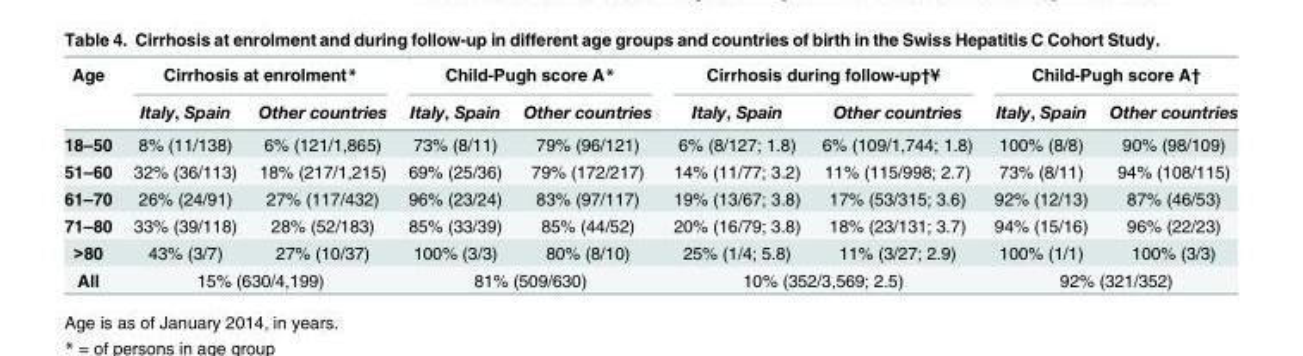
<table><thead><tr><td rowspan="2">Age</td><td colspan="2">Cirrhosis at enrolment*</td><td colspan="2">Child-Pugh score A*</td><td colspan="2">Cirrhosis during follow-up†¥</td><td colspan="2">Child-Pugh score A†</td></tr><tr><td>Italy, Spain</td><td>Other countries</td><td>Italy, Spain</td><td>Other countries</td><td>Italy, Spain</td><td>Other countries</td><td>Italy, Spain</td><td>Other countries</td></tr></thead><tbody><tr><td>18–50</td><td>8% (11/138)</td><td>6% (121/1,865)</td><td>73% (8/11)</td><td>79% (96/121)</td><td>6% (8/127; 1.8)</td><td>6% (109/1,744; 1.8)</td><td>100% (8/8)</td><td>90% (98/109)</td></tr><tr><td>51–60</td><td>32% (36/113)</td><td>18% (217/1,215)</td><td>69% (25/36)</td><td>79% (172/217)</td><td>14% (11/77; 3.2)</td><td>11% (115/998; 2.7)</td><td>73% (8/11)</td><td>94% (108/115)</td></tr><tr><td>61–70</td><td>26% (24/91)</td><td>27% (117/432)</td><td>96% (23/24)</td><td>83% (97/117)</td><td>19% (13/67; 3.8)</td><td>17% (53/315; 3.6)</td><td>92% (12/13)</td><td>87% (46/53)</td></tr><tr><td>71–80</td><td>33% (39/118)</td><td>28% (52/183)</td><td>85% (33/39)</td><td>85% (44/52)</td><td>20% (16/79; 3.8)</td><td>18% (23/131; 3.7)</td><td>94% (15/16)</td><td>96% (22/23)</td></tr><tr><td>&gt;80</td><td>43% (3/7)</td><td>27% (10/37)</td><td>100% (3/3)</td><td>80% (8/10)</td><td>25% (1/4; 5.8)</td><td>11% (3/27; 2.9)</td><td>100% (1/1)</td><td>100% (3/3)</td></tr><tr><td>All</td><td colspan="2">15% (630/4,199)</td><td colspan="2">81% (509/630)</td><td colspan="2">10% (352/3,569; 2.5)</td><td colspan="2">92% (321/352)</td></tr></tbody></table>